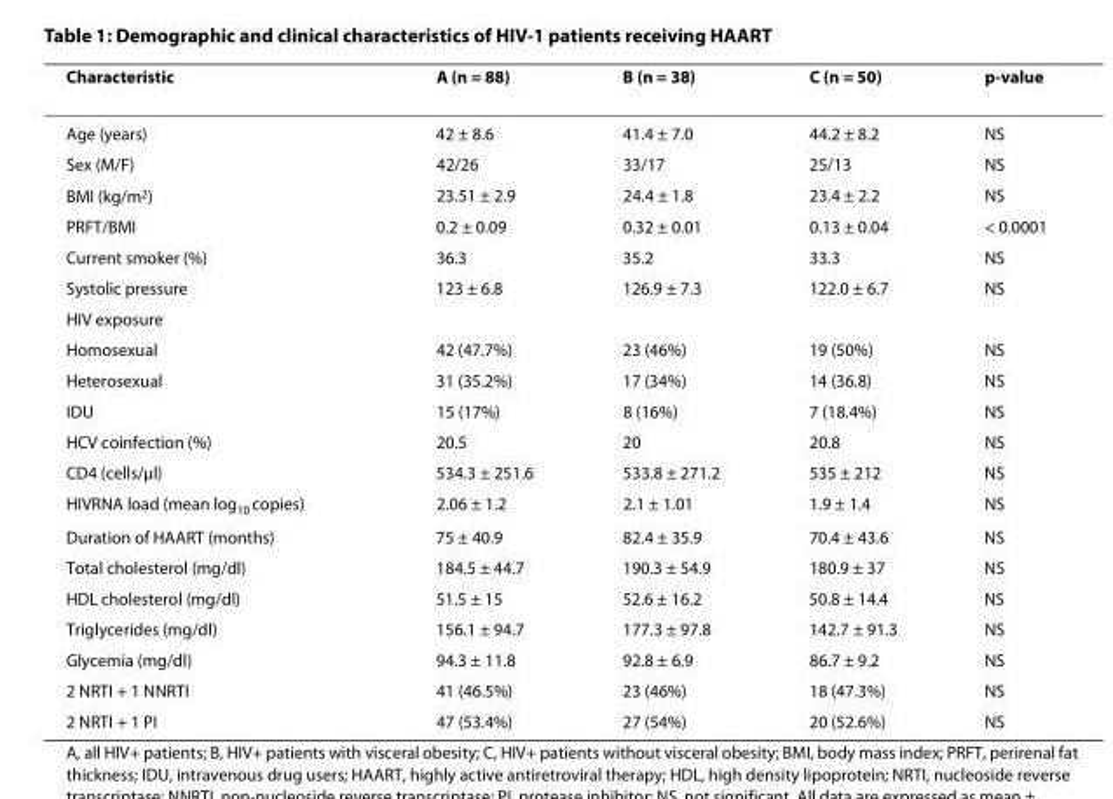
<table><thead><tr><td>Characteristic</td><td>A (n = 88)</td><td>B (n = 38)</td><td>C (n = 50)</td><td>p-value</td></tr></thead><tbody><tr><td>Age (years)</td><td>42 ± 8.6</td><td>41.4 ± 7.0</td><td>44.2 ± 8.2</td><td>NS</td></tr><tr><td>Sex (M/F)</td><td>42/26</td><td>33/17</td><td>25/13</td><td>NS</td></tr><tr><td>BMI (kg/m<sup>2</sup>)</td><td>23.51 ± 2.9</td><td>24.4 ± 1.8</td><td>23.4 ± 2.2</td><td>NS</td></tr><tr><td>PRFT/BMI</td><td>0.2 ± 0.09</td><td>0.32 ± 0.01</td><td>0.13 ± 0.04</td><td>&lt; 0.0001</td></tr><tr><td>Current smoker (%)</td><td>36.3</td><td>35.2</td><td>33.3</td><td>NS</td></tr><tr><td>Systolic pressure</td><td>123 ± 6.8</td><td>126.9 ± 7.3</td><td>122.0 ± 6.7</td><td>NS</td></tr><tr><td colspan="5">HIV exposure</td></tr><tr><td>Homosexual</td><td>42 (47.7%)</td><td>23 (46%)</td><td>19 (50%)</td><td>NS</td></tr><tr><td>Heterosexual</td><td>31 (35.2%)</td><td>17 (34%)</td><td>14 (36.8)</td><td>NS</td></tr><tr><td>IDU</td><td>15 (17%)</td><td>8 (16%)</td><td>7 (18.4%)</td><td>NS</td></tr><tr><td>HCV coinfection (%)</td><td>20.5</td><td>20</td><td>20.8</td><td>NS</td></tr><tr><td>CD4 (cells/μl)</td><td>534.3 ± 251.6</td><td>533.8 ± 271.2</td><td>535 ± 212</td><td>NS</td></tr><tr><td>HIVRNA load (mean log<sub>10</sub> copies)</td><td>2.06 ± 1.2</td><td>2.1 ± 1.01</td><td>1.9 ± 1.4</td><td>NS</td></tr><tr><td>Duration of HAART (months)</td><td>75 ± 40.9</td><td>82.4 ± 35.9</td><td>70.4 ± 43.6</td><td>NS</td></tr><tr><td>Total cholesterol (mg/dl)</td><td>184.5 ± 44.7</td><td>190.3 ± 54.9</td><td>180.9 ± 37</td><td>NS</td></tr><tr><td>HDL cholesterol (mg/dl)</td><td>51.5 ± 15</td><td>52.6 ± 16.2</td><td>50.8 ± 14.4</td><td>NS</td></tr><tr><td>Triglycerides (mg/dl)</td><td>156.1 ± 94.7</td><td>177.3 ± 97.8</td><td>142.7 ± 91.3</td><td>NS</td></tr><tr><td>Glycemia (mg/dl)</td><td>94.3 ± 11.8</td><td>92.8 ± 6.9</td><td>86.7 ± 9.2</td><td>NS</td></tr><tr><td>2 NRTI + 1 NNRTI</td><td>41 (46.5%)</td><td>23 (46%)</td><td>18 (47.3%)</td><td>NS</td></tr><tr><td>2 NRTI + 1 PI</td><td>47 (53.4%)</td><td>27 (54%)</td><td>20 (52.6%)</td><td>NS</td></tr></tbody></table>